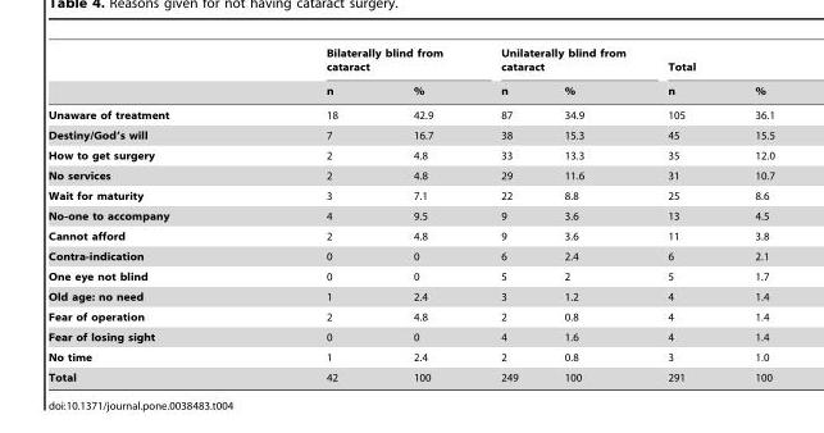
<table><thead><tr><td rowspan="2"></td><td colspan="2">Bilaterally blind from cataract</td><td colspan="2">Unilaterally blind from cataract</td><td colspan="2">Total</td></tr><tr><td>n</td><td>%</td><td>n</td><td>%</td><td>n</td><td>%</td></tr></thead><tbody><tr><td>Unaware of treatment</td><td>18</td><td>42.9</td><td>87</td><td>34.9</td><td>105</td><td>36.1</td></tr><tr><td>Destiny/God’s will</td><td>7</td><td>16.7</td><td>38</td><td>15.3</td><td>45</td><td>15.5</td></tr><tr><td>How to get surgery</td><td>2</td><td>4.8</td><td>33</td><td>13.3</td><td>35</td><td>12.0</td></tr><tr><td>No services</td><td>2</td><td>4.8</td><td>29</td><td>11.6</td><td>31</td><td>10.7</td></tr><tr><td>Wait for maturity</td><td>3</td><td>7.1</td><td>22</td><td>8.8</td><td>25</td><td>8.6</td></tr><tr><td>No-one to accompany</td><td>4</td><td>9.5</td><td>9</td><td>3.6</td><td>13</td><td>4.5</td></tr><tr><td>Cannot afford</td><td>2</td><td>4.8</td><td>9</td><td>3.6</td><td>11</td><td>3.8</td></tr><tr><td>Contra-indication</td><td>0</td><td>0</td><td>6</td><td>2.4</td><td>6</td><td>2.1</td></tr><tr><td>One eye not blind</td><td>0</td><td>0</td><td>5</td><td>2</td><td>5</td><td>1.7</td></tr><tr><td>Old age: no need</td><td>1</td><td>2.4</td><td>3</td><td>1.2</td><td>4</td><td>1.4</td></tr><tr><td>Fear of operation</td><td>2</td><td>4.8</td><td>2</td><td>0.8</td><td>4</td><td>1.4</td></tr><tr><td>Fear of losing sight</td><td>0</td><td>0</td><td>4</td><td>1.6</td><td>4</td><td>1.4</td></tr><tr><td>No time</td><td>1</td><td>2.4</td><td>2</td><td>0.8</td><td>3</td><td>1.0</td></tr><tr><td>Total</td><td>42</td><td>100</td><td>249</td><td>100</td><td>291</td><td>100</td></tr></tbody></table>